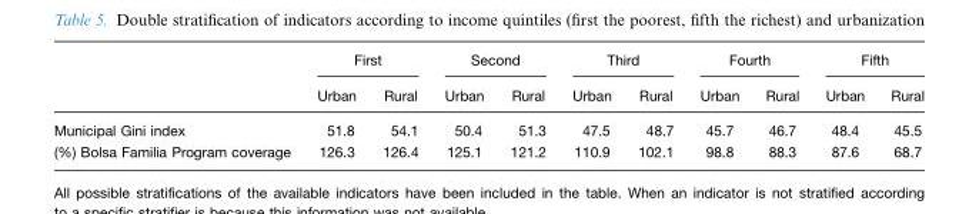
<table><thead><tr><td rowspan="2"></td><td colspan="2">First</td><td colspan="2">Second</td><td colspan="2">Third</td><td colspan="2">Fourth</td><td colspan="2">Fifth</td></tr><tr><td>Urban</td><td>Rural</td><td>Urban</td><td>Rural</td><td>Urban</td><td>Rural</td><td>Urban</td><td>Rural</td><td>Urban</td><td>Rural</td></tr></thead><tbody><tr><td>Municipal Gini index</td><td>51.8</td><td>54.1</td><td>50.4</td><td>51.3</td><td>47.5</td><td>48.7</td><td>45.7</td><td>46.7</td><td>48.4</td><td>45.5</td></tr><tr><td>(%) Bolsa Familia Program coverage</td><td>126.3</td><td>126.4</td><td>125.1</td><td>121.2</td><td>110.9</td><td>102.1</td><td>98.8</td><td>88.3</td><td>87.6</td><td>68.7</td></tr></tbody></table>